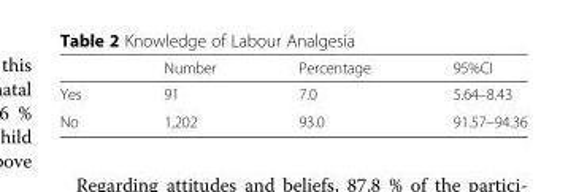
<table><thead><tr><td></td><td>Number</td><td>Percentage</td><td>95%CI</td></tr></thead><tbody><tr><td>Yes</td><td>91</td><td>7.0</td><td>5.64–8.43</td></tr><tr><td>No</td><td>1,202</td><td>93.0</td><td>91.57–94.36</td></tr></tbody></table>